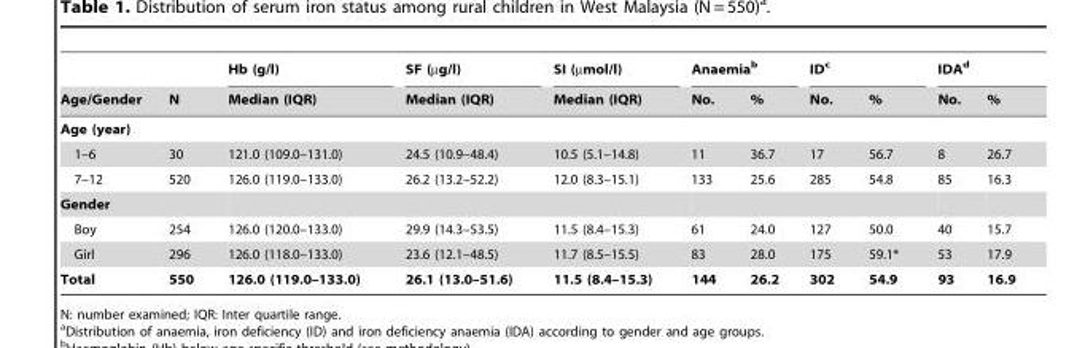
<table><thead><tr><td rowspan="2">Age/Gender</td><td rowspan="2">N</td><td rowspan="2">Hb (g/l) Median (IQR)</td><td rowspan="2">SF (µg/l) Median (IQR)</td><td rowspan="2">SI (µmol/l) Median (IQR)</td><td colspan="2">Anaemia<sup>b</sup></td><td colspan="2">ID<sup>c</sup></td><td colspan="2">IDA<sup>d</sup></td></tr><tr><td>No.</td><td>%</td><td>No.</td><td>%</td><td>No.</td><td>%</td></tr></thead><tbody><tr><td colspan="11">Age (year)</td></tr><tr><td>1–6</td><td>30</td><td>121.0 (109.0–131.0)</td><td>24.5 (10.9–48.4)</td><td>10.5 (5.1–14.8)</td><td>11</td><td>36.7</td><td>17</td><td>56.7</td><td>8</td><td>26.7</td></tr><tr><td>7–12</td><td>520</td><td>126.0 (119.0–133.0)</td><td>26.2 (13.2–52.2)</td><td>12.0 (8.3–15.1)</td><td>133</td><td>25.6</td><td>285</td><td>54.8</td><td>85</td><td>16.3</td></tr><tr><td colspan="11">Gender</td></tr><tr><td>Boy</td><td>254</td><td>126.0 (120.0–133.0)</td><td>29.9 (14.3–53.5)</td><td>11.5 (8.4–15.3)</td><td>61</td><td>24.0</td><td>127</td><td>50.0</td><td>40</td><td>15.7</td></tr><tr><td>Girl</td><td>296</td><td>126.0 (118.0–133.0)</td><td>23.6 (12.1–48.5)</td><td>11.7 (8.5–15.5)</td><td>83</td><td>28.0</td><td>175</td><td>59.1*</td><td>53</td><td>17.9</td></tr><tr><td>Total</td><td>550</td><td>126.0 (119.0–133.0)</td><td>26.1 (13.0–51.6)</td><td>11.5 (8.4–15.3)</td><td>144</td><td>26.2</td><td>302</td><td>54.9</td><td>93</td><td>16.9</td></tr></tbody></table>